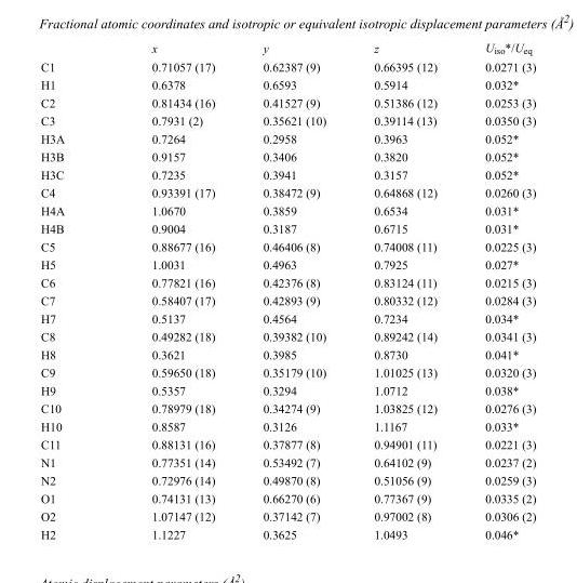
<table><thead><tr><td></td><td>x</td><td>y</td><td>z</td><td>U<sub>iso</sub>*/U<sub>eq</sub></td></tr></thead><tbody><tr><td>C1</td><td>0.71057 (17)</td><td>0.62387 (9)</td><td>0.66395 (12)</td><td>0.0271 (3)</td></tr><tr><td>H1</td><td>0.6378</td><td>0.6593</td><td>0.5914</td><td>0.032*</td></tr><tr><td>C2</td><td>0.81434 (16)</td><td>0.41527 (9)</td><td>0.51386 (12)</td><td>0.0253 (3)</td></tr><tr><td>C3</td><td>0.7931 (2)</td><td>0.35621 (10)</td><td>0.39114 (13)</td><td>0.0350 (3)</td></tr><tr><td>H3A</td><td>0.7264</td><td>0.2958</td><td>0.3963</td><td>0.052*</td></tr><tr><td>H3B</td><td>0.9157</td><td>0.3406</td><td>0.3820</td><td>0.052*</td></tr><tr><td>H3C</td><td>0.7235</td><td>0.3941</td><td>0.3157</td><td>0.052*</td></tr><tr><td>C4</td><td>0.93391 (17)</td><td>0.38472 (9)</td><td>0.64868 (12)</td><td>0.0260 (3)</td></tr><tr><td>H4A</td><td>1.0670</td><td>0.3859</td><td>0.6534</td><td>0.031*</td></tr><tr><td>H4B</td><td>0.9004</td><td>0.3187</td><td>0.6715</td><td>0.031*</td></tr><tr><td>C5</td><td>0.88677 (16)</td><td>0.46406 (8)</td><td>0.74008 (11)</td><td>0.0225 (3)</td></tr><tr><td>H5</td><td>1.0031</td><td>0.4963</td><td>0.7925</td><td>0.027*</td></tr><tr><td>C6</td><td>0.77821 (16)</td><td>0.42376 (8)</td><td>0.83124 (11)</td><td>0.0215 (3)</td></tr><tr><td>C7</td><td>0.58407 (17)</td><td>0.42893 (9)</td><td>0.80332 (12)</td><td>0.0284 (3)</td></tr><tr><td>H7</td><td>0.5137</td><td>0.4564</td><td>0.7234</td><td>0.034*</td></tr><tr><td>C8</td><td>0.49282 (18)</td><td>0.39382 (10)</td><td>0.89242 (14)</td><td>0.0341 (3)</td></tr><tr><td>H8</td><td>0.3621</td><td>0.3985</td><td>0.8730</td><td>0.041*</td></tr><tr><td>C9</td><td>0.59650 (18)</td><td>0.35179 (10)</td><td>1.01025 (13)</td><td>0.0320 (3)</td></tr><tr><td>H9</td><td>0.5357</td><td>0.3294</td><td>1.0712</td><td>0.038*</td></tr><tr><td>C10</td><td>0.78979 (18)</td><td>0.34274 (9)</td><td>1.03825 (12)</td><td>0.0276 (3)</td></tr><tr><td>H10</td><td>0.8587</td><td>0.3126</td><td>1.1167</td><td>0.033*</td></tr><tr><td>C11</td><td>0.88131 (16)</td><td>0.37877 (8)</td><td>0.94901 (11)</td><td>0.0221 (3)</td></tr><tr><td>N1</td><td>0.77351 (14)</td><td>0.53492 (7)</td><td>0.64102 (9)</td><td>0.0237 (2)</td></tr><tr><td>N2</td><td>0.72976 (14)</td><td>0.49870 (8)</td><td>0.51056 (9)</td><td>0.0259 (3)</td></tr><tr><td>O1</td><td>0.74131 (13)</td><td>0.66270 (6)</td><td>0.77367 (9)</td><td>0.0335 (2)</td></tr><tr><td>O2</td><td>1.07147 (12)</td><td>0.37142 (7)</td><td>0.97002 (8)</td><td>0.0306 (2)</td></tr><tr><td>H2</td><td>1.1227</td><td>0.3625</td><td>1.0493</td><td>0.046*</td></tr></tbody></table>